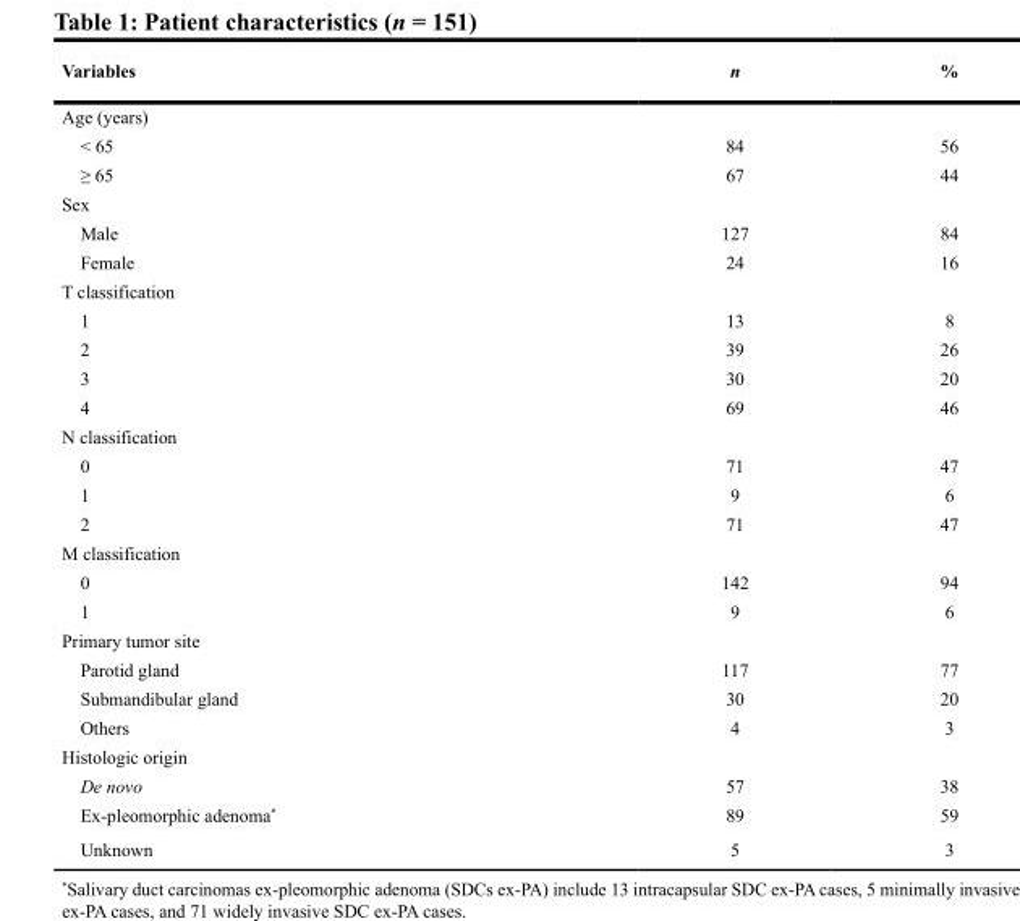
<table><thead><tr><td>Variables</td><td>n</td><td>%</td></tr></thead><tbody><tr><td colspan="3">Age (years)</td></tr><tr><td>&lt; 65</td><td>84</td><td>56</td></tr><tr><td>≥ 65</td><td>67</td><td>44</td></tr><tr><td colspan="3">Sex</td></tr><tr><td>Male</td><td>127</td><td>84</td></tr><tr><td>Female</td><td>24</td><td>16</td></tr><tr><td colspan="3">T classification</td></tr><tr><td>1</td><td>13</td><td>8</td></tr><tr><td>2</td><td>39</td><td>26</td></tr><tr><td>3</td><td>30</td><td>20</td></tr><tr><td>4</td><td>69</td><td>46</td></tr><tr><td colspan="3">N classification</td></tr><tr><td>0</td><td>71</td><td>47</td></tr><tr><td>1</td><td>9</td><td>6</td></tr><tr><td>2</td><td>71</td><td>47</td></tr><tr><td colspan="3">M classification</td></tr><tr><td>0</td><td>142</td><td>94</td></tr><tr><td>1</td><td>9</td><td>6</td></tr><tr><td colspan="3">Primary tumor site</td></tr><tr><td>Parotid gland</td><td>117</td><td>77</td></tr><tr><td>Submandibular gland</td><td>30</td><td>20</td></tr><tr><td>Others</td><td>4</td><td>3</td></tr><tr><td colspan="3">Histologic origin</td></tr><tr><td>De novo</td><td>57</td><td>38</td></tr><tr><td>Ex-pleomorphic adenoma*</td><td>89</td><td>59</td></tr><tr><td>Unknown</td><td>5</td><td>3</td></tr></tbody></table>